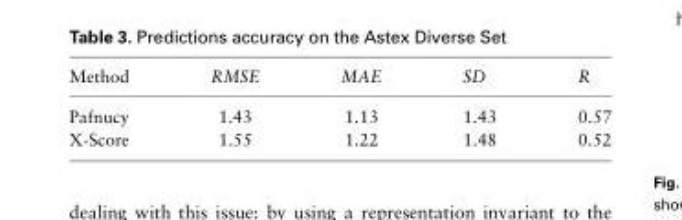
<table><thead><tr><td>Method</td><td>RMSE</td><td>MAE</td><td>SD</td><td>R</td></tr></thead><tbody><tr><td>Pafnucy</td><td>1.43</td><td>1.13</td><td>1.43</td><td>0.57</td></tr><tr><td>X-Score</td><td>1.55</td><td>1.22</td><td>1.48</td><td>0.52</td></tr></tbody></table>